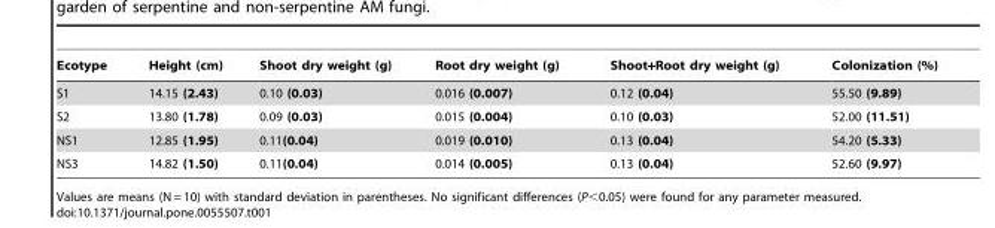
<table><thead><tr><td>Ecotype</td><td>Height (cm)</td><td>Shoot dry weight (g)</td><td>Root dry weight (g)</td><td>Shoot+Root dry weight (g)</td><td>Colonization (%)</td></tr></thead><tbody><tr><td>S1</td><td>14.15 (2.43)</td><td>0.10 (0.03)</td><td>0.016 (0.007)</td><td>0.12 (0.04)</td><td>55.50 (9.89)</td></tr><tr><td>S2</td><td>13.80 (1.78)</td><td>0.09 (0.03)</td><td>0.015 (0.004)</td><td>0.10 (0.03)</td><td>52.00 (11.51)</td></tr><tr><td>NS1</td><td>12.85 (1.95)</td><td>0.11(0.04)</td><td>0.019 (0.010)</td><td>0.13 (0.04)</td><td>54.20 (5.33)</td></tr><tr><td>NS3</td><td>14.82 (1.50)</td><td>0.11(0.04)</td><td>0.014 (0.005)</td><td>0.13 (0.04)</td><td>52.60 (9.97)</td></tr></tbody></table>